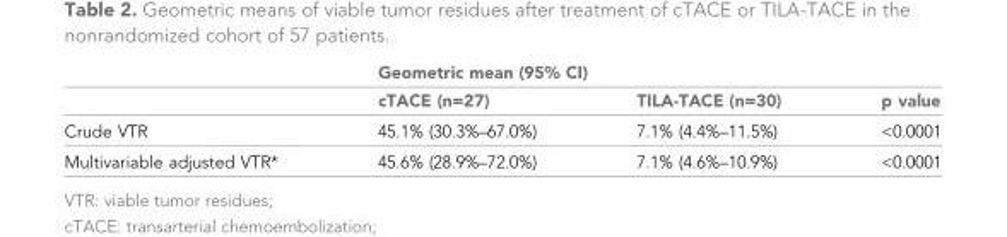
<table><thead><tr><td rowspan="2"></td><td colspan="2">Geometric mean (95% CI)</td><td rowspan="2">p value</td></tr><tr><td>cTACE (n=27)</td><td>TILA-TACE (n=30)</td></tr></thead><tbody><tr><td>Crude VTR</td><td>45.1% (30.3%–67.0%)</td><td>7.1% (4.4%–11.5%)</td><td>&lt;0.0001</td></tr><tr><td>Multivariable adjusted VTR*</td><td>45.6% (28.9%–72.0%)</td><td>7.1% (4.6%–10.9%)</td><td>&lt;0.0001</td></tr></tbody></table>